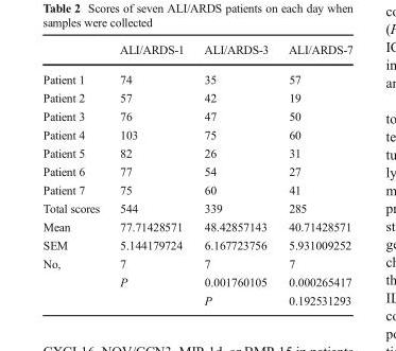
<table><thead><tr><td></td><td>ALI/ARDS-1</td><td>ALI/ARDS-3</td><td>ALI/ARDS-7</td></tr></thead><tbody><tr><td>Patient 1</td><td>74</td><td>35</td><td>57</td></tr><tr><td>Patient 2</td><td>57</td><td>42</td><td>19</td></tr><tr><td>Patient 3</td><td>76</td><td>47</td><td>50</td></tr><tr><td>Patient 4</td><td>103</td><td>75</td><td>60</td></tr><tr><td>Patient 5</td><td>82</td><td>26</td><td>31</td></tr><tr><td>Patient 6</td><td>77</td><td>54</td><td>27</td></tr><tr><td>Patient 7</td><td>75</td><td>60</td><td>41</td></tr><tr><td>Total scores</td><td>544</td><td>339</td><td>285</td></tr><tr><td>Mean</td><td>77.71428571</td><td>48.42857143</td><td>40.71428571</td></tr><tr><td>SEM</td><td>5.144179724</td><td>6.167723756</td><td>5.931009252</td></tr><tr><td rowspan="3">No,</td><td>7</td><td>7</td><td>7</td></tr><tr><td>P</td><td>0.001760105</td><td>0.000265417</td></tr><tr><td></td><td>P</td><td>0.192531293</td></tr></tbody></table>